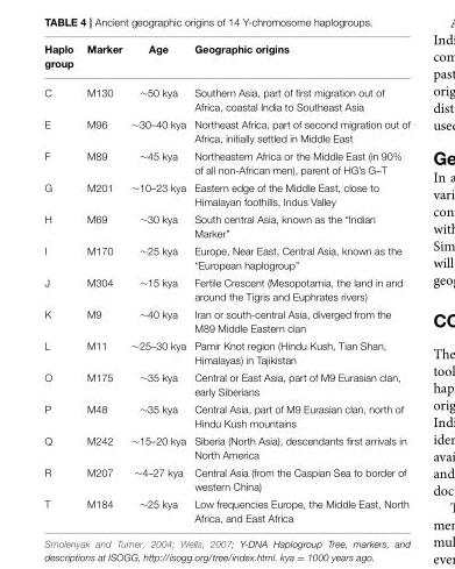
<table><thead><tr><td>Haplo group</td><td>Marker</td><td>Age</td><td>Geographic origins</td></tr></thead><tbody><tr><td>C</td><td>M130</td><td>∼50 kya</td><td>Southern Asia, part of first migration out of Africa, coastal India to Southeast Asia</td></tr><tr><td>E</td><td>M96</td><td>∼30–40 kya</td><td>Northeast Africa, part of second migration out of Africa, initially settled in Middle East</td></tr><tr><td>F</td><td>M89</td><td>∼45 kya</td><td>Northeastern Africa or the Middle East (in 90% of all non-African men), parent of HG’s G–T</td></tr><tr><td>G</td><td>M201</td><td>∼10–23 kya</td><td>Eastern edge of the Middle East, close to Himalayan foothills, Indus Valley</td></tr><tr><td>H</td><td>M69</td><td>∼30 kya</td><td>South central Asia, known as the “Indian Marker”</td></tr><tr><td>I</td><td>M170</td><td>∼25 kya</td><td>Europe, Near East, Central Asia, known as the “European haplogroup”</td></tr><tr><td>J</td><td>M304</td><td>∼15 kya</td><td>Fertile Crescent (Mesopotamia, the land in and around the Tigris and Euphrates rivers)</td></tr><tr><td>K</td><td>M9</td><td>∼40 kya</td><td>Iran or south-central Asia, diverged from the M89 Middle Eastern clan</td></tr><tr><td>L</td><td>M11</td><td>∼25–30 kya</td><td>Pamir Knot region (Hindu Kush, Tian Shan, Himalayas) in Tajikistan</td></tr><tr><td>O</td><td>M175</td><td>∼35 kya</td><td>Central or East Asia, part of M9 Eurasian clan, early Siberians</td></tr><tr><td>P</td><td>M48</td><td>∼35 kya</td><td>Central Asia, part of M9 Eurasian clan, north of Hindu Kush mountains</td></tr><tr><td>Q</td><td>M242</td><td>∼15–20 kya</td><td>Siberia (North Asia), descendants first arrivals in North America</td></tr><tr><td>R</td><td>M207</td><td>∼4–27 kya</td><td>Central Asia (from the Caspian Sea to border of western China)</td></tr><tr><td>T</td><td>M184</td><td>∼25 kya</td><td>Low frequencies Europe, the Middle East, North Africa, and East Africa</td></tr></tbody></table>